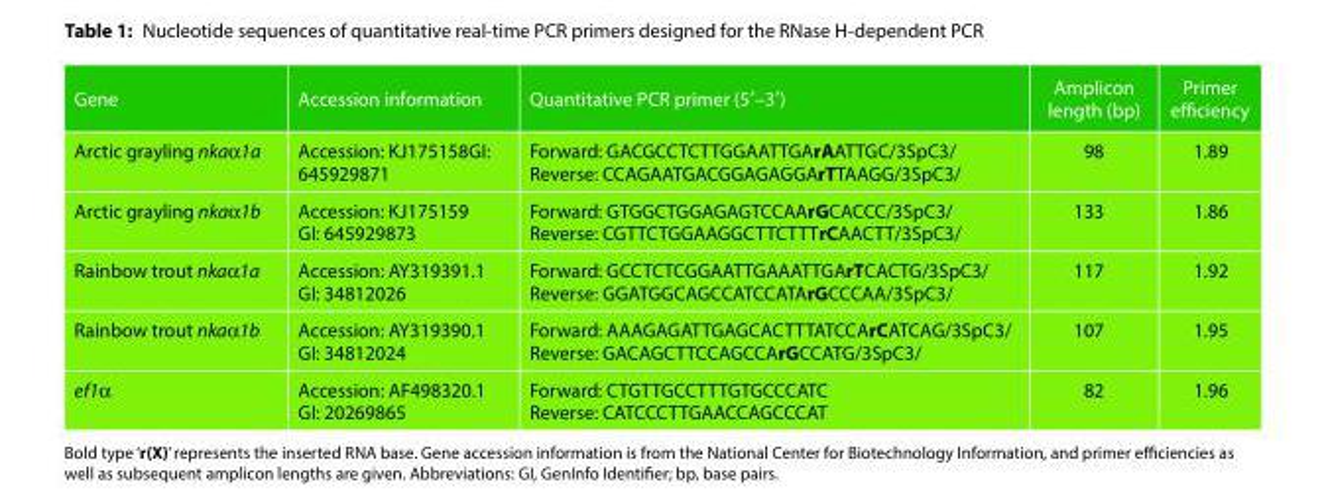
<table><thead><tr><td>Gene</td><td>Accession information</td><td>Quantitative PCR primer (5′–3′)</td><td>Amplicon length (bp)</td><td>Primer efficiency</td></tr></thead><tbody><tr><td>Arctic grayling nkaα1a</td><td>Accession: KJ175158GI: 645929871</td><td>Forward: GACGCCTCTTGGAATTGArAATTGC/3SpC3/ Reverse: CCAGAATGACGGAGAGGArTTAAGG/3SpC3/</td><td>98</td><td>1.89</td></tr><tr><td>Arctic grayling nkaα1b</td><td>Accession: KJ175159 GI: 645929873</td><td>Forward: GTGGCTGGAGAGTCCAArGCACCC/3SpC3/ Reverse: CGTTCTGGAAGGCTTCTTTrCAACTT/3SpC3/</td><td>133</td><td>1.86</td></tr><tr><td>Rainbow trout nkaα1a</td><td>Accession: AY319391.1 GI: 34812026</td><td>Forward: GCCTCTCGGAATTGAAATTGArTCACTG/3SpC3/ Reverse: GGATGGCAGCCATCCATArGCCCAA/3SpC3/</td><td>117</td><td>1.92</td></tr><tr><td>Rainbow trout nkaα1b</td><td>Accession: AY319390.1 GI: 34812024</td><td>Forward: AAAGAGATTGAGCACTTTATCCArCATCAG/3SpC3/ Reverse: GACAGCTTCCAGCCArGCCATG/3SpC3/</td><td>107</td><td>1.95</td></tr><tr><td>ef1α</td><td>Accession: AF498320.1 GI: 20269865</td><td>Forward: CTGTTGCCTTTGTGCCCATC Reverse: CATCCCTTGAACCAGCCCAT</td><td>82</td><td>1.96</td></tr></tbody></table>